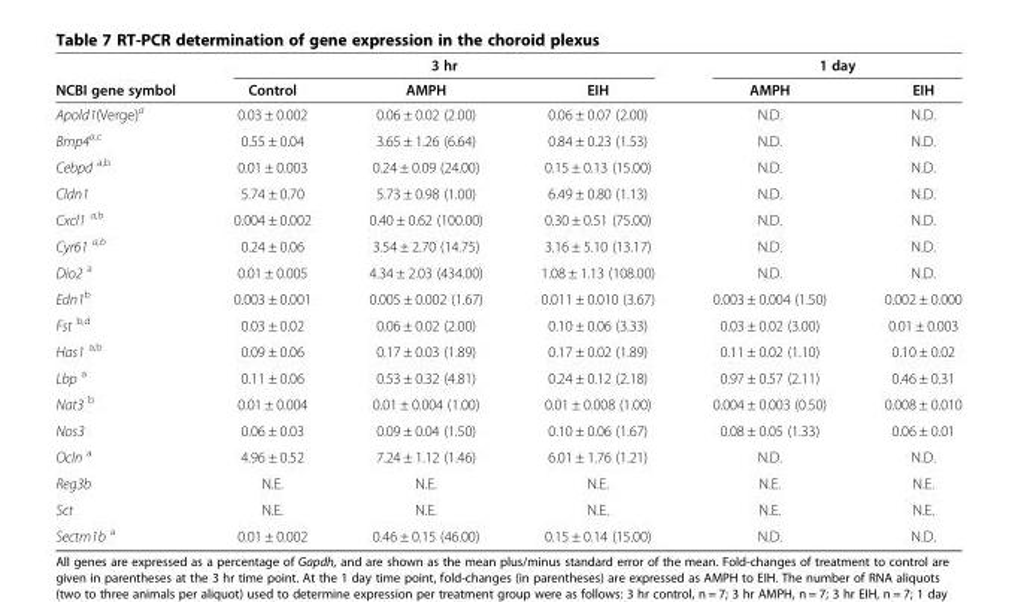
<table><thead><tr><td rowspan="2">NCBI gene symbol</td><td colspan="3">3 hr</td><td colspan="2">1 day</td></tr><tr><td>Control</td><td>AMPH</td><td>EIH</td><td>AMPH</td><td>EIH</td></tr></thead><tbody><tr><td>Apold1(Verge)<sup>a</sup></td><td>0.03 ± 0.002</td><td>0.06 ± 0.02 (2.00)</td><td>0.06 ± 0.07 (2.00)</td><td>N.D.</td><td>N.D.</td></tr><tr><td>Bmp4<sup>a,c</sup></td><td>0.55 ± 0.04</td><td>3.65 ± 1.26 (6.64)</td><td>0.84 ± 0.23 (1.53)</td><td>N.D.</td><td>N.D.</td></tr><tr><td>Cebpd <sup>a,b</sup></td><td>0.01 ± 0.003</td><td>0.24 ± 0.09 (24.00)</td><td>0.15 ± 0.13 (15.00)</td><td>N.D.</td><td>N.D.</td></tr><tr><td>Cldn1</td><td>5.74 ± 0.70</td><td>5.73 ± 0.98 (1.00)</td><td>6.49 ± 0.80 (1.13)</td><td>N.D.</td><td>N.D.</td></tr><tr><td>Cxcl1 <sup>a,b</sup></td><td>0.004 ± 0.002</td><td>0.40 ± 0.62 (100.00)</td><td>0.30 ± 0.51 (75.00)</td><td>N.D.</td><td>N.D.</td></tr><tr><td>Cyr61 <sup>a,b</sup></td><td>0.24 ± 0.06</td><td>3.54 ± 2.70 (14.75)</td><td>3.16 ± 5.10 (13.17)</td><td>N.D.</td><td>N.D.</td></tr><tr><td>Dio2 <sup>a</sup></td><td>0.01 ± 0.005</td><td>4.34 ± 2.03 (434.00)</td><td>1.08 ± 1.13 (108.00)</td><td>N.D.</td><td>N.D.</td></tr><tr><td>Edn1<sup>b</sup></td><td>0.003 ± 0.001</td><td>0.005 ± 0.002 (1.67)</td><td>0.011 ± 0.010 (3.67)</td><td>0.003 ± 0.004 (1.50)</td><td>0.002 ± 0.000</td></tr><tr><td>Fst <sup>b,d</sup></td><td>0.03 ± 0.02</td><td>0.06 ± 0.02 (2.00)</td><td>0.10 ± 0.06 (3.33)</td><td>0.03 ± 0.02 (3.00)</td><td>0.01 ± 0.003</td></tr><tr><td>Has1 <sup>a,b</sup></td><td>0.09 ± 0.06</td><td>0.17 ± 0.03 (1.89)</td><td>0.17 ± 0.02 (1.89)</td><td>0.11 ± 0.02 (1.10)</td><td>0.10 ± 0.02</td></tr><tr><td>Lbp <sup>a</sup></td><td>0.11 ± 0.06</td><td>0.53 ± 0.32 (4.81)</td><td>0.24 ± 0.12 (2.18)</td><td>0.97 ± 0.57 (2.11)</td><td>0.46 ± 0.31</td></tr><tr><td>Nat3 <sup>b</sup></td><td>0.01 ± 0.004</td><td>0.01 ± 0.004 (1.00)</td><td>0.01 ± 0.008 (1.00)</td><td>0.004 ± 0.003 (0.50)</td><td>0.008 ± 0.010</td></tr><tr><td>Nos3</td><td>0.06 ± 0.03</td><td>0.09 ± 0.04 (1.50)</td><td>0.10 ± 0.06 (1.67)</td><td>0.08 ± 0.05 (1.33)</td><td>0.06 ± 0.01</td></tr><tr><td>Ocln <sup>a</sup></td><td>4.96 ± 0.52</td><td>7.24 ± 1.12 (1.46)</td><td>6.01 ± 1.76 (1.21)</td><td>N.D.</td><td>N.D.</td></tr><tr><td>Reg3b</td><td>N.E.</td><td>N.E.</td><td>N.E.</td><td>N.E.</td><td>N.E.</td></tr><tr><td>Sct</td><td>N.E.</td><td>N.E.</td><td>N.E.</td><td>N.E.</td><td>N.E.</td></tr><tr><td>Sectm1b <sup>a</sup></td><td>0.01 ± 0.002</td><td>0.46 ± 0.15 (46.00)</td><td>0.15 ± 0.14 (15.00)</td><td>N.D.</td><td>N.D.</td></tr></tbody></table>